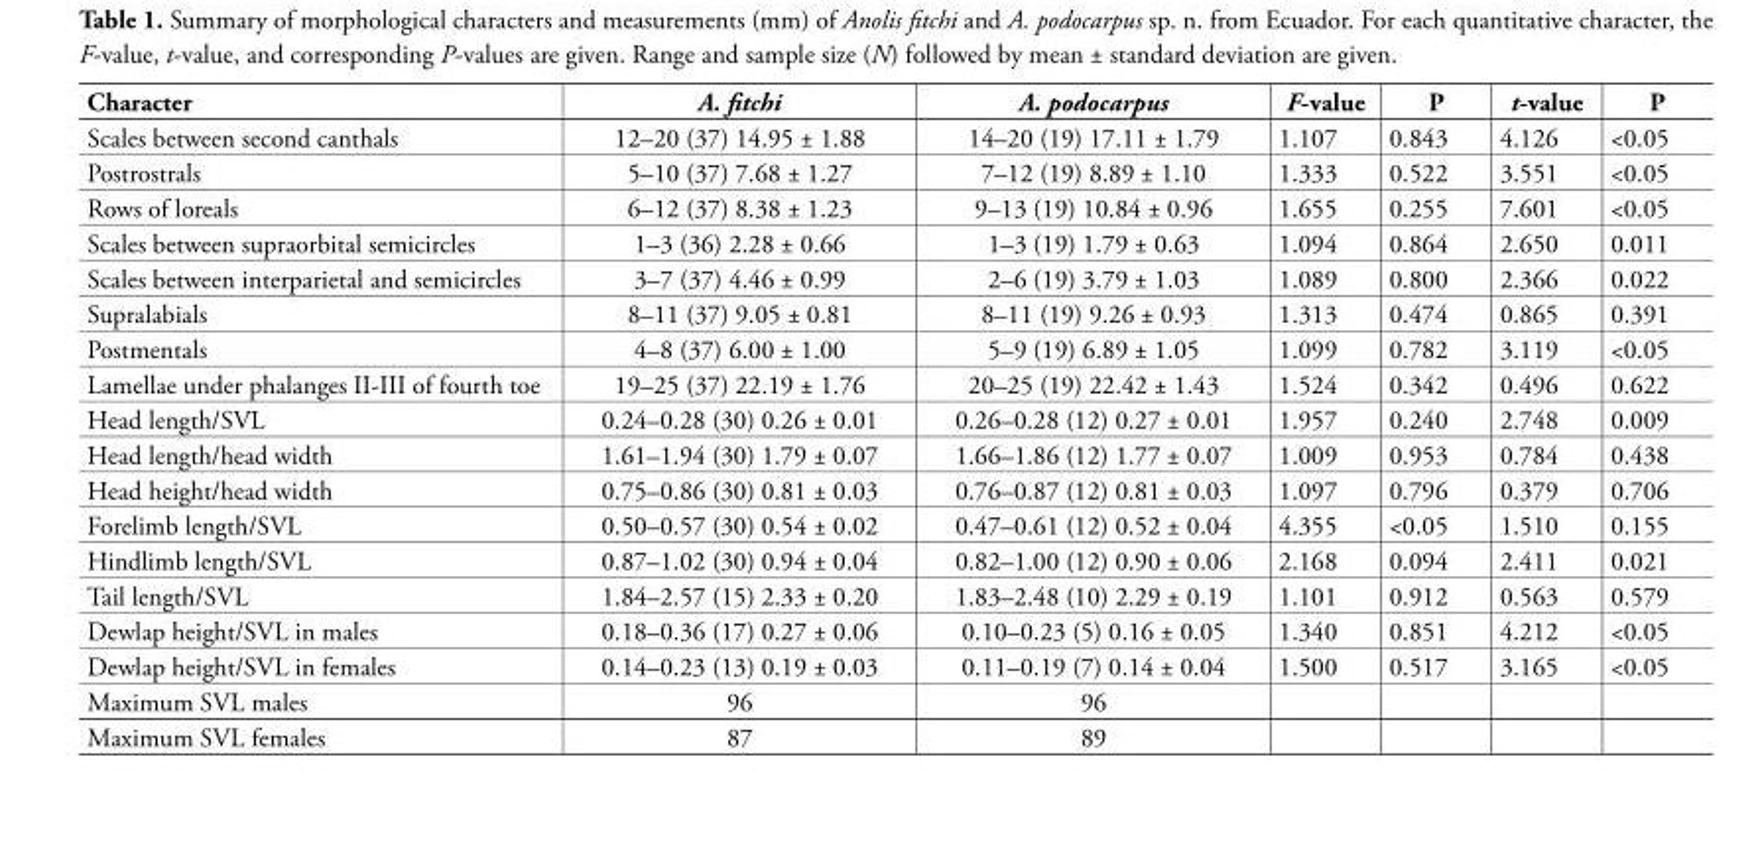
<table><thead><tr><td>Character</td><td>A. fi tchi</td><td>A. podocarpus</td><td>F-value</td><td>P</td><td>t-value</td><td>P</td></tr></thead><tbody><tr><td>Scales between second canthals</td><td>12–20 (37) 14.95 ± 1.88</td><td>14–20 (19) 17.11 ± 1.79</td><td>1.107</td><td>0.843</td><td>4.126</td><td>&lt;0.05</td></tr><tr><td>Postrostrals</td><td>5–10 (37) 7.68 ± 1.27</td><td>7–12 (19) 8.89 ± 1.10</td><td>1.333</td><td>0.522</td><td>3.551</td><td>&lt;0.05</td></tr><tr><td>Rows of loreals</td><td>6–12 (37) 8.38 ± 1.23</td><td>9–13 (19) 10.84 ± 0.96</td><td>1.655</td><td>0.255</td><td>7.601</td><td>&lt;0.05</td></tr><tr><td>Scales between supraorbital semicircles</td><td>1–3 (36) 2.28 ± 0.66</td><td>1–3 (19) 1.79 ± 0.63</td><td>1.094</td><td>0.864</td><td>2.650</td><td>0.011</td></tr><tr><td>Scales between interparietal and semicircles</td><td>3–7 (37) 4.46 ± 0.99</td><td>2–6 (19) 3.79 ± 1.03</td><td>1.089</td><td>0.800</td><td>2.366</td><td>0.022</td></tr><tr><td>Supralabials</td><td>8–11 (37) 9.05 ± 0.81</td><td>8–11 (19) 9.26 ± 0.93</td><td>1.313</td><td>0.474</td><td>0.865</td><td>0.391</td></tr><tr><td>Postmentals</td><td>4–8 (37) 6.00 ± 1.00</td><td>5–9 (19) 6.89 ± 1.05</td><td>1.099</td><td>0.782</td><td>3.119</td><td>&lt;0.05</td></tr><tr><td>Lamellae under phalanges II-III of fourth toe</td><td>19–25 (37) 22.19 ± 1.76</td><td>20–25 (19) 22.42 ± 1.43</td><td>1.524</td><td>0.342</td><td>0.496</td><td>0.622</td></tr><tr><td>Head length/SVL</td><td>0.24–0.28 (30) 0.26 ± 0.01</td><td>0.26–0.28 (12) 0.27 ± 0.01</td><td>1.957</td><td>0.240</td><td>2.748</td><td>0.009</td></tr><tr><td>Head length/head width</td><td>1.61–1.94 (30) 1.79 ± 0.07</td><td>1.66–1.86 (12) 1.77 ± 0.07</td><td>1.009</td><td>0.953</td><td>0.784</td><td>0.438</td></tr><tr><td>Head height/head width</td><td>0.75–0.86 (30) 0.81 ± 0.03</td><td>0.76–0.87 (12) 0.81 ± 0.03</td><td>1.097</td><td>0.796</td><td>0.379</td><td>0.706</td></tr><tr><td>Forelimb length/SVL</td><td>0.50–0.57 (30) 0.54 ± 0.02</td><td>0.47–0.61 (12) 0.52 ± 0.04</td><td>4.355</td><td>&lt;0.05</td><td>1.510</td><td>0.155</td></tr><tr><td>Hindlimb length/SVL</td><td>0.87–1.02 (30) 0.94 ± 0.04</td><td>0.82–1.00 (12) 0.90 ± 0.06</td><td>2.168</td><td>0.094</td><td>2.411</td><td>0.021</td></tr><tr><td>Tail length/SVL</td><td>1.84–2.57 (15) 2.33 ± 0.20</td><td>1.83–2.48 (10) 2.29 ± 0.19</td><td>1.101</td><td>0.912</td><td>0.563</td><td>0.579</td></tr><tr><td>Dewlap height/SVL in males</td><td>0.18–0.36 (17) 0.27 ± 0.06</td><td>0.10–0.23 (5) 0.16 ± 0.05</td><td>1.340</td><td>0.851</td><td>4.212</td><td>&lt;0.05</td></tr><tr><td>Dewlap height/SVL in females</td><td>0.14–0.23 (13) 0.19 ± 0.03</td><td>0.11–0.19 (7) 0.14 ± 0.04</td><td>1.500</td><td>0.517</td><td>3.165</td><td>&lt;0.05</td></tr><tr><td>Maximum SVL males</td><td>96</td><td>96</td><td></td><td></td><td></td><td></td></tr><tr><td>Maximum SVL females</td><td>87</td><td>89</td><td></td><td></td><td></td><td></td></tr></tbody></table>